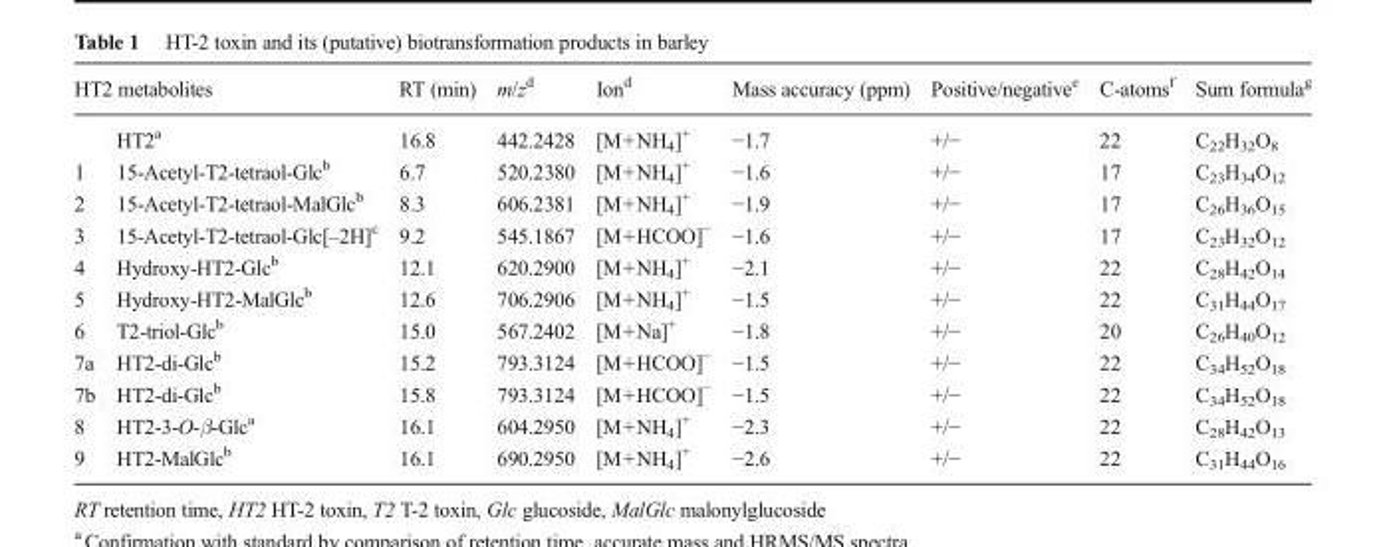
<table><thead><tr><td colspan="2">HT2 metabolites</td><td rowspan="2">RT (min) 16.8</td><td rowspan="2">m/z<sup>d</sup> 442.2428</td><td rowspan="2">Ion<sup>d</sup> [M+NH<sub>4</sub>]<sup>+</sup></td><td rowspan="2">Mass accuracy (ppm) −1.7</td><td rowspan="2">Positive/negative<sup>e</sup> +/−</td><td rowspan="2">C-atoms<sup>f</sup> 22</td><td rowspan="2">Sum formula<sup>g</sup> C<sub>22</sub>H<sub>32</sub>O<sub>8</sub></td></tr><tr><td></td><td>HT2<sup>a</sup></td></tr></thead><tbody><tr><td>1</td><td>15-Acetyl-T2-tetraol-Glc<sup>b</sup></td><td>6.7</td><td>520.2380</td><td>[M+NH<sub>4</sub>]<sup>+</sup></td><td>−1.6</td><td>+/−</td><td>17</td><td>C<sub>23</sub>H<sub>34</sub>O<sub>12</sub></td></tr><tr><td>2</td><td>15-Acetyl-T2-tetraol-MalGlc<sup>b</sup></td><td>8.3</td><td>606.2381</td><td>[M+NH<sub>4</sub>]<sup>+</sup></td><td>−1.9</td><td>+/−</td><td>17</td><td>C<sub>26</sub>H<sub>36</sub>O<sub>15</sub></td></tr><tr><td>3</td><td>15-Acetyl-T2-tetraol-Glc[–2H]<sup>c</sup></td><td>9.2</td><td>545.1867</td><td>[M+HCOO]<sup>−</sup></td><td>−1.6</td><td>+/−</td><td>17</td><td>C<sub>23</sub>H<sub>32</sub>O<sub>12</sub></td></tr><tr><td>4</td><td>Hydroxy-HT2-Glc<sup>b</sup></td><td>12.1</td><td>620.2900</td><td>[M+NH<sub>4</sub>]<sup>+</sup></td><td>−2.1</td><td>+/−</td><td>22</td><td>C<sub>28</sub>H<sub>42</sub>O<sub>14</sub></td></tr><tr><td>5</td><td>Hydroxy-HT2-MalGlc<sup>b</sup></td><td>12.6</td><td>706.2906</td><td>[M+NH<sub>4</sub>]<sup>+</sup></td><td>−1.5</td><td>+/−</td><td>22</td><td>C<sub>31</sub>H<sub>44</sub>O<sub>17</sub></td></tr><tr><td>6</td><td>T2-triol-Glc<sup>b</sup></td><td>15.0</td><td>567.2402</td><td>[M+Na]<sup>+</sup></td><td>−1.8</td><td>+/−</td><td>20</td><td>C<sub>26</sub>H<sub>40</sub>O<sub>12</sub></td></tr><tr><td>7a</td><td>HT2-di-Glc<sup>b</sup></td><td>15.2</td><td>793.3124</td><td>[M+HCOO]<sup>−</sup></td><td>−1.5</td><td>+/−</td><td>22</td><td>C<sub>34</sub>H<sub>52</sub>O<sub>18</sub></td></tr><tr><td>7b</td><td>HT2-di-Glc<sup>b</sup></td><td>15.8</td><td>793.3124</td><td>[M+HCOO]<sup>−</sup></td><td>−1.5</td><td>+/−</td><td>22</td><td>C<sub>34</sub>H<sub>52</sub>O<sub>18</sub></td></tr><tr><td>8</td><td>HT2-3-O-β-Glc<sup>a</sup></td><td>16.1</td><td>604.2950</td><td>[M+NH<sub>4</sub>]<sup>+</sup></td><td>−2.3</td><td>+/−</td><td>22</td><td>C<sub>28</sub>H<sub>42</sub>O<sub>13</sub></td></tr><tr><td>9</td><td>HT2-MalGlc<sup>b</sup></td><td>16.1</td><td>690.2950</td><td>[M+NH<sub>4</sub>]<sup>+</sup></td><td>−2.6</td><td>+/−</td><td>22</td><td>C<sub>31</sub>H<sub>44</sub>O<sub>16</sub></td></tr></tbody></table>